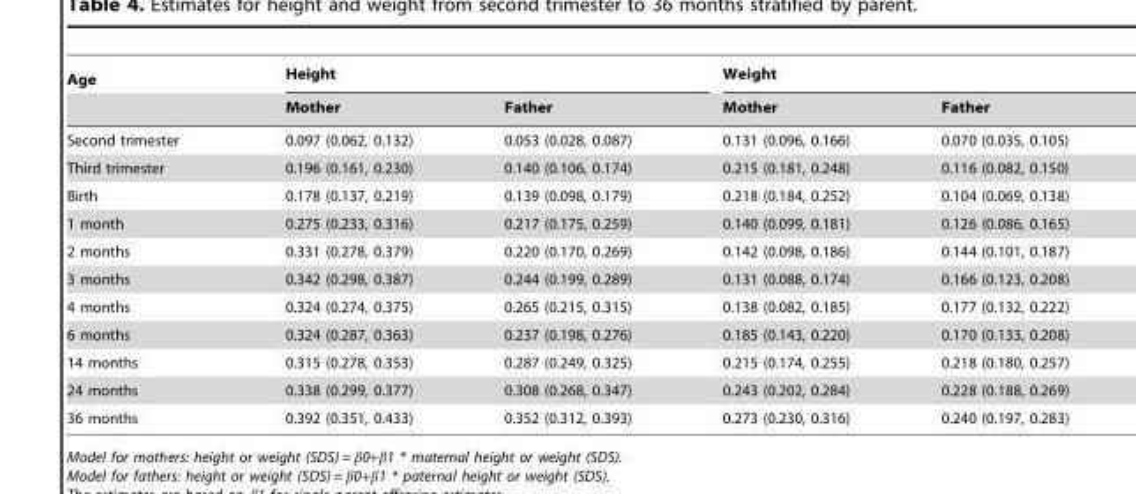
<table><thead><tr><td rowspan="2">Age</td><td colspan="2">Height</td><td colspan="2">Weight</td></tr><tr><td>Mother</td><td>Father</td><td>Mother</td><td>Father</td></tr></thead><tbody><tr><td>Second trimester</td><td>0.097 (0.062, 0.132)</td><td>0.053 (0.028, 0.087)</td><td>0.131 (0.096, 0.166)</td><td>0.070 (0.035, 0.105)</td></tr><tr><td>Third trimester</td><td>0.196 (0.161, 0.230)</td><td>0.140 (0.106, 0.174)</td><td>0.215 (0.181, 0.248)</td><td>0.116 (0.082, 0.150)</td></tr><tr><td>Birth</td><td>0.178 (0.137, 0.219)</td><td>0.139 (0.098, 0.179)</td><td>0.218 (0.184, 0.252)</td><td>0.104 (0.069, 0.138)</td></tr><tr><td>1 month</td><td>0.275 (0.233, 0.316)</td><td>0.217 (0.175, 0.259)</td><td>0.140 (0.099, 0.181)</td><td>0.126 (0.086, 0.165)</td></tr><tr><td>2 months</td><td>0.331 (0.278, 0.379)</td><td>0.220 (0.170, 0.269)</td><td>0.142 (0.098, 0.186)</td><td>0.144 (0.101, 0.187)</td></tr><tr><td>3 months</td><td>0.342 (0.298, 0.387)</td><td>0.244 (0.199, 0.289)</td><td>0.131 (0.088, 0.174)</td><td>0.166 (0.123, 0.208)</td></tr><tr><td>4 months</td><td>0.324 (0.274, 0.375)</td><td>0.265 (0.215, 0.315)</td><td>0.138 (0.082, 0.185)</td><td>0.177 (0.132, 0.222)</td></tr><tr><td>6 months</td><td>0.324 (0.287, 0.363)</td><td>0.237 (0.198, 0.276)</td><td>0.185 (0.143, 0.220)</td><td>0.170 (0.133, 0.208)</td></tr><tr><td>14 months</td><td>0.315 (0.278, 0.353)</td><td>0.287 (0.249, 0.325)</td><td>0.215 (0.174, 0.255)</td><td>0.218 (0.180, 0.257)</td></tr><tr><td>24 months</td><td>0.338 (0.299, 0.377)</td><td>0.308 (0.268, 0.347)</td><td>0.243 (0.202, 0.284)</td><td>0.228 (0.188, 0.269)</td></tr><tr><td>36 months</td><td>0.392 (0.351, 0.433)</td><td>0.352 (0.312, 0.393)</td><td>0.273 (0.230, 0.316)</td><td>0.240 (0.197, 0.283)</td></tr></tbody></table>